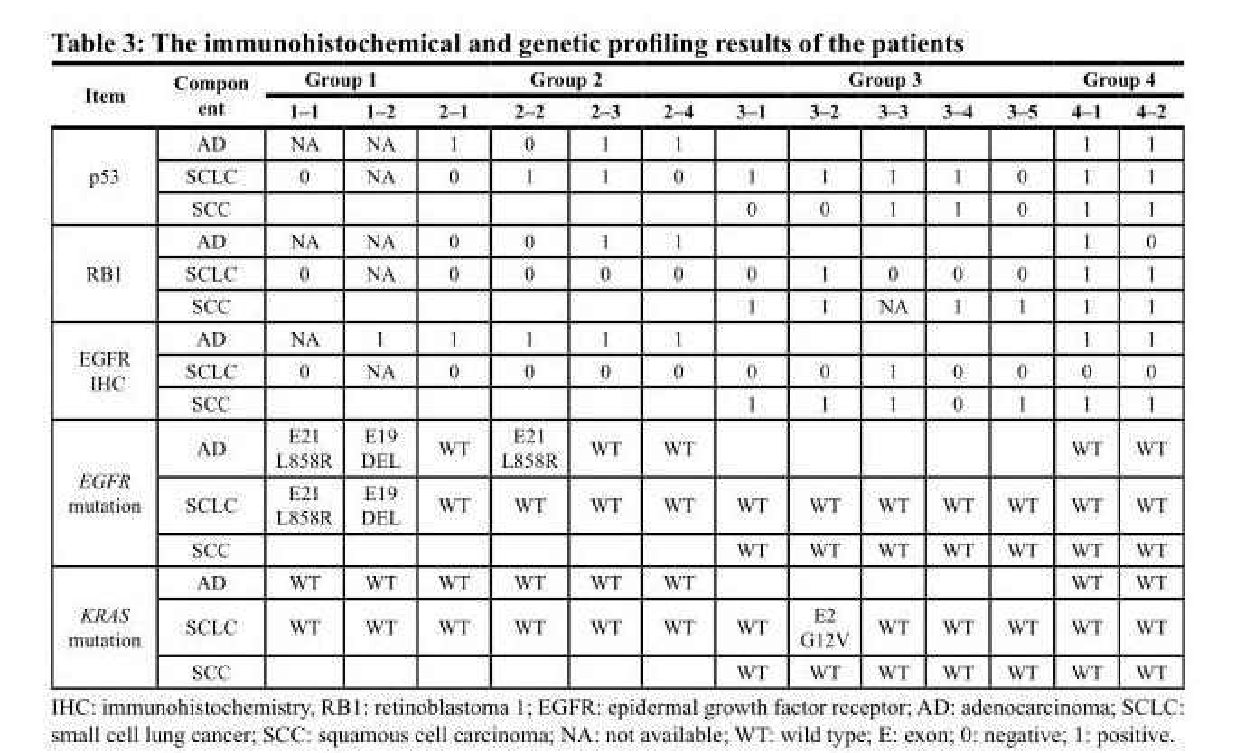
<table><thead><tr><td rowspan="2">Item</td><td rowspan="2">Compon ent</td><td colspan="2">Group 1</td><td colspan="4">Group 2</td><td colspan="5">Group 3</td><td colspan="2">Group 4</td></tr><tr><td>1–1</td><td>1–2</td><td>2–1</td><td>2–2</td><td>2–3</td><td>2–4</td><td>3–1</td><td>3–2</td><td>3–3</td><td>3–4</td><td>3–5</td><td>4–1</td><td>4–2</td></tr></thead><tbody><tr><td rowspan="3">p53</td><td>AD</td><td>NA</td><td>NA</td><td>1</td><td>0</td><td>1</td><td>1</td><td></td><td></td><td></td><td></td><td></td><td>1</td><td>1</td></tr><tr><td>SCLC</td><td>0</td><td>NA</td><td>0</td><td>1</td><td>1</td><td>0</td><td>1</td><td>1</td><td>1</td><td>1</td><td>0</td><td>1</td><td>1</td></tr><tr><td>SCC</td><td></td><td></td><td></td><td></td><td></td><td></td><td>0</td><td>0</td><td>1</td><td>1</td><td>0</td><td>1</td><td>1</td></tr><tr><td rowspan="3">RB1</td><td>AD</td><td>NA</td><td>NA</td><td>0</td><td>0</td><td>1</td><td>1</td><td></td><td></td><td></td><td></td><td></td><td>1</td><td>0</td></tr><tr><td>SCLC</td><td>0</td><td>NA</td><td>0</td><td>0</td><td>0</td><td>0</td><td>0</td><td>1</td><td>0</td><td>0</td><td>0</td><td>1</td><td>1</td></tr><tr><td>SCC</td><td></td><td></td><td></td><td></td><td></td><td></td><td>1</td><td>1</td><td>NA</td><td>1</td><td>1</td><td>1</td><td>1</td></tr><tr><td rowspan="3">EGFR IHC</td><td>AD</td><td>NA</td><td>1</td><td>1</td><td>1</td><td>1</td><td>1</td><td></td><td></td><td></td><td></td><td></td><td>1</td><td>1</td></tr><tr><td>SCLC</td><td>0</td><td>NA</td><td>0</td><td>0</td><td>0</td><td>0</td><td>0</td><td>0</td><td>1</td><td>0</td><td>0</td><td>0</td><td>0</td></tr><tr><td>SCC</td><td></td><td></td><td></td><td></td><td></td><td></td><td>1</td><td>1</td><td>1</td><td>0</td><td>1</td><td>1</td><td>1</td></tr><tr><td rowspan="3">EGFR mutation</td><td>AD</td><td>E21 L858R</td><td>E19 DEL</td><td>WT</td><td>E21 L858R</td><td>WT</td><td>WT</td><td></td><td></td><td></td><td></td><td></td><td>WT</td><td>WT</td></tr><tr><td>SCLC</td><td>E21 L858R</td><td>E19 DEL</td><td>WT</td><td>WT</td><td>WT</td><td>WT</td><td>WT</td><td>WT</td><td>WT</td><td>WT</td><td>WT</td><td>WT</td><td>WT</td></tr><tr><td>SCC</td><td></td><td></td><td></td><td></td><td></td><td></td><td>WT</td><td>WT</td><td>WT</td><td>WT</td><td>WT</td><td>WT</td><td>WT</td></tr><tr><td rowspan="3">KRAS mutation</td><td>AD</td><td>WT</td><td>WT</td><td>WT</td><td>WT</td><td>WT</td><td>WT</td><td></td><td></td><td></td><td></td><td></td><td>WT</td><td>WT</td></tr><tr><td>SCLC</td><td>WT</td><td>WT</td><td>WT</td><td>WT</td><td>WT</td><td>WT</td><td>WT</td><td>E2 G12V</td><td>WT</td><td>WT</td><td>WT</td><td>WT</td><td>WT</td></tr><tr><td>SCC</td><td></td><td></td><td></td><td></td><td></td><td></td><td>WT</td><td>WT</td><td>WT</td><td>WT</td><td>WT</td><td>WT</td><td>WT</td></tr></tbody></table>